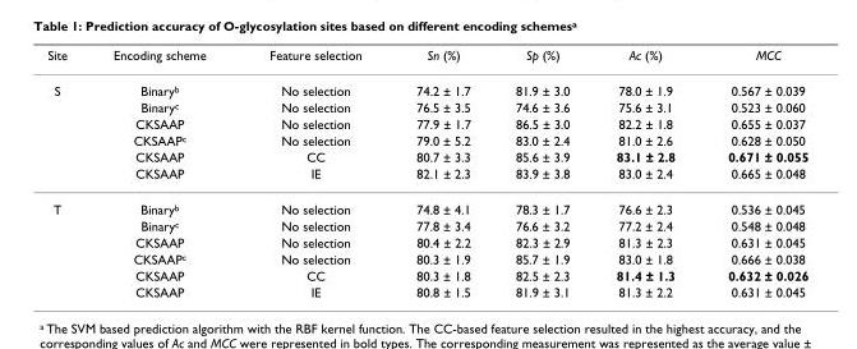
<table><thead><tr><td>Site</td><td>Encoding scheme</td><td>Feature selection</td><td>Sn (%)</td><td>Sp (%)</td><td>Ac (%)</td><td>MCC</td></tr></thead><tbody><tr><td rowspan="6">S</td><td>Binary<sup>b</sup></td><td>No selection</td><td>74.2 ± 1.7</td><td>81.9 ± 3.0</td><td>78.0 ± 1.9</td><td>0.567 ± 0.039</td></tr><tr><td>Binary<sup>c</sup></td><td>No selection</td><td>76.5 ± 3.5</td><td>74.6 ± 3.6</td><td>75.6 ± 3.1</td><td>0.523 ± 0.060</td></tr><tr><td>CKSAAP</td><td>No selection</td><td>77.9 ± 1.7</td><td>86.5 ± 3.0</td><td>82.2 ± 1.8</td><td>0.655 ± 0.037</td></tr><tr><td>CKSAAP<sup>c</sup></td><td>No selection</td><td>79.0 ± 5.2</td><td>83.0 ± 2.4</td><td>81.0 ± 2.6</td><td>0.628 ± 0.050</td></tr><tr><td>CKSAAP</td><td>CC</td><td>80.7 ± 3.3</td><td>85.6 ± 3.9</td><td>83.1 ± 2.8</td><td>0.671 ± 0.055</td></tr><tr><td>CKSAAP</td><td>IE</td><td>82.1 ± 2.3</td><td>83.9 ± 3.8</td><td>83.0 ± 2.4</td><td>0.665 ± 0.048</td></tr><tr><td rowspan="6">T</td><td>Binary<sup>b</sup></td><td>No selection</td><td>74.8 ± 4.1</td><td>78.3 ± 1.7</td><td>76.6 ± 2.3</td><td>0.536 ± 0.045</td></tr><tr><td>Binary<sup>c</sup></td><td>No selection</td><td>77.8 ± 3.4</td><td>76.6 ± 3.2</td><td>77.2 ± 2.4</td><td>0.548 ± 0.048</td></tr><tr><td>CKSAAP</td><td>No selection</td><td>80.4 ± 2.2</td><td>82.3 ± 2.9</td><td>81.3 ± 2.3</td><td>0.631 ± 0.045</td></tr><tr><td>CKSAAP<sup>c</sup></td><td>No selection</td><td>80.3 ± 1.9</td><td>85.7 ± 1.9</td><td>83.0 ± 1.8</td><td>0.666 ± 0.038</td></tr><tr><td>CKSAAP</td><td>CC</td><td>80.3 ± 1.8</td><td>82.5 ± 2.3</td><td>81.4 ± 1.3</td><td>0.632 ± 0.026</td></tr><tr><td>CKSAAP</td><td>IE</td><td>80.8 ± 1.5</td><td>81.9 ± 3.1</td><td>81.3 ± 2.2</td><td>0.631 ± 0.045</td></tr></tbody></table>